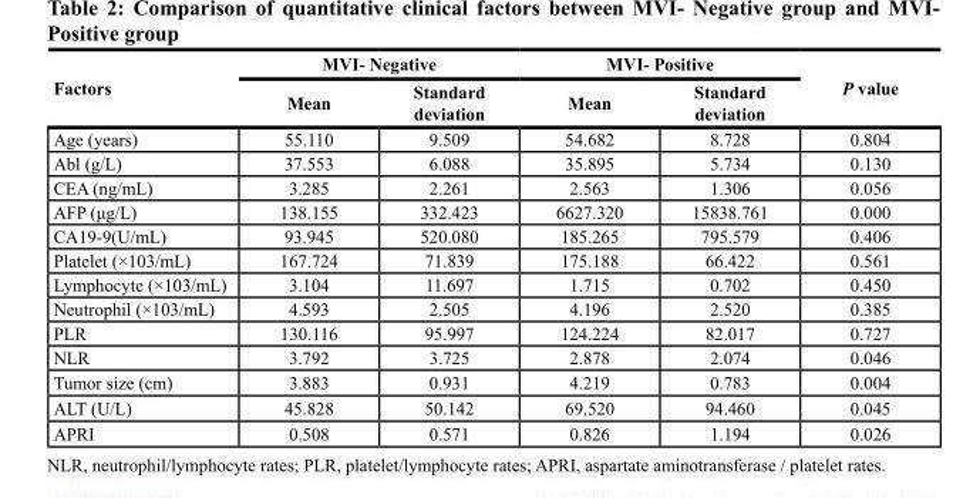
<table><thead><tr><td rowspan="2">Factors</td><td colspan="2">MVI- Negative</td><td colspan="2">MVI- Positive</td><td rowspan="2">P value</td></tr><tr><td>Mean</td><td>Standard deviation</td><td>Mean</td><td>Standard deviation</td></tr></thead><tbody><tr><td>Age (years)</td><td>55.110</td><td>9.509</td><td>54.682</td><td>8.728</td><td>0.804</td></tr><tr><td>Abl (g/L)</td><td>37.553</td><td>6.088</td><td>35.895</td><td>5.734</td><td>0.130</td></tr><tr><td>CEA (ng/mL)</td><td>3.285</td><td>2.261</td><td>2.563</td><td>1.306</td><td>0.056</td></tr><tr><td>AFP (μg/L)</td><td>138.155</td><td>332.423</td><td>6627.320</td><td>15838.761</td><td>0.000</td></tr><tr><td>CA19-9(U/mL)</td><td>93.945</td><td>520.080</td><td>185.265</td><td>795.579</td><td>0.406</td></tr><tr><td>Platelet (×103/mL)</td><td>167.724</td><td>71.839</td><td>175.188</td><td>66.422</td><td>0.561</td></tr><tr><td>Lymphocyte (×103/mL)</td><td>3.104</td><td>11.697</td><td>1.715</td><td>0.702</td><td>0.450</td></tr><tr><td>Neutrophil (×103/mL)</td><td>4.593</td><td>2.505</td><td>4.196</td><td>2.520</td><td>0.385</td></tr><tr><td>PLR</td><td>130.116</td><td>95.997</td><td>124.224</td><td>82.017</td><td>0.727</td></tr><tr><td>NLR</td><td>3.792</td><td>3.725</td><td>2.878</td><td>2.074</td><td>0.046</td></tr><tr><td>Tumor size (cm)</td><td>3.883</td><td>0.931</td><td>4.219</td><td>0.783</td><td>0.004</td></tr><tr><td>ALT (U/L)</td><td>45.828</td><td>50.142</td><td>69.520</td><td>94.460</td><td>0.045</td></tr><tr><td>APRI</td><td>0.508</td><td>0.571</td><td>0.826</td><td>1.194</td><td>0.026</td></tr></tbody></table>